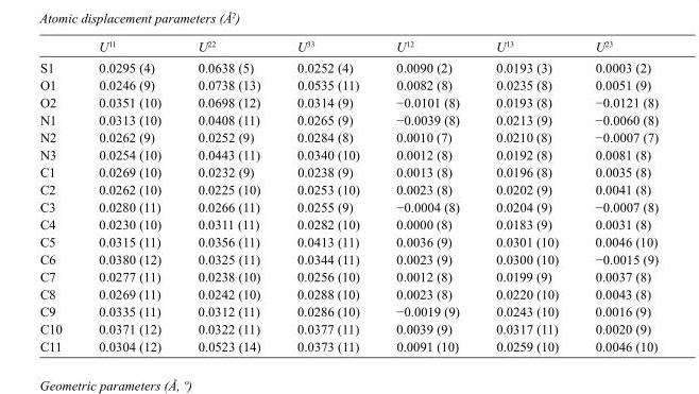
<table><thead><tr><td></td><td>U<sup>11</sup></td><td>U<sup>22</sup></td><td>U<sup>33</sup></td><td>U<sup>12</sup></td><td>U<sup>13</sup></td><td>U<sup>23</sup></td></tr></thead><tbody><tr><td>S1</td><td>0.0295 (4)</td><td>0.0638 (5)</td><td>0.0252 (4)</td><td>0.0090 (2)</td><td>0.0193 (3)</td><td>0.0003 (2)</td></tr><tr><td>O1</td><td>0.0246 (9)</td><td>0.0738 (13)</td><td>0.0535 (11)</td><td>0.0082 (8)</td><td>0.0235 (8)</td><td>0.0051 (9)</td></tr><tr><td>O2</td><td>0.0351 (10)</td><td>0.0698 (12)</td><td>0.0314 (9)</td><td>−0.0101 (8)</td><td>0.0193 (8)</td><td>−0.0121 (8)</td></tr><tr><td>N1</td><td>0.0313 (10)</td><td>0.0408 (11)</td><td>0.0265 (9)</td><td>−0.0039 (8)</td><td>0.0213 (9)</td><td>−0.0060 (8)</td></tr><tr><td>N2</td><td>0.0262 (9)</td><td>0.0252 (9)</td><td>0.0284 (8)</td><td>0.0010 (7)</td><td>0.0210 (8)</td><td>−0.0007 (7)</td></tr><tr><td>N3</td><td>0.0254 (10)</td><td>0.0443 (11)</td><td>0.0340 (10)</td><td>0.0012 (8)</td><td>0.0192 (8)</td><td>0.0081 (8)</td></tr><tr><td>C1</td><td>0.0269 (10)</td><td>0.0232 (9)</td><td>0.0238 (9)</td><td>0.0013 (8)</td><td>0.0196 (8)</td><td>0.0035 (8)</td></tr><tr><td>C2</td><td>0.0262 (10)</td><td>0.0225 (10)</td><td>0.0253 (10)</td><td>0.0023 (8)</td><td>0.0202 (9)</td><td>0.0041 (8)</td></tr><tr><td>C3</td><td>0.0280 (11)</td><td>0.0266 (11)</td><td>0.0255 (9)</td><td>−0.0004 (8)</td><td>0.0204 (9)</td><td>−0.0007 (8)</td></tr><tr><td>C4</td><td>0.0230 (10)</td><td>0.0311 (11)</td><td>0.0282 (10)</td><td>0.0000 (8)</td><td>0.0183 (9)</td><td>0.0031 (8)</td></tr><tr><td>C5</td><td>0.0315 (11)</td><td>0.0356 (11)</td><td>0.0413 (11)</td><td>0.0036 (9)</td><td>0.0301 (10)</td><td>0.0046 (10)</td></tr><tr><td>C6</td><td>0.0380 (12)</td><td>0.0325 (11)</td><td>0.0344 (11)</td><td>0.0023 (9)</td><td>0.0300 (10)</td><td>−0.0015 (9)</td></tr><tr><td>C7</td><td>0.0277 (11)</td><td>0.0238 (10)</td><td>0.0256 (10)</td><td>0.0012 (8)</td><td>0.0199 (9)</td><td>0.0037 (8)</td></tr><tr><td>C8</td><td>0.0269 (11)</td><td>0.0242 (10)</td><td>0.0288 (10)</td><td>0.0023 (8)</td><td>0.0220 (10)</td><td>0.0043 (8)</td></tr><tr><td>C9</td><td>0.0335 (11)</td><td>0.0312 (11)</td><td>0.0286 (10)</td><td>−0.0019 (9)</td><td>0.0243 (10)</td><td>0.0016 (9)</td></tr><tr><td>C10</td><td>0.0371 (12)</td><td>0.0322 (11)</td><td>0.0377 (11)</td><td>0.0039 (9)</td><td>0.0317 (11)</td><td>0.0020 (9)</td></tr><tr><td>C11</td><td>0.0304 (12)</td><td>0.0523 (14)</td><td>0.0373 (11)</td><td>0.0091 (10)</td><td>0.0259 (10)</td><td>0.0046 (10)</td></tr></tbody></table>